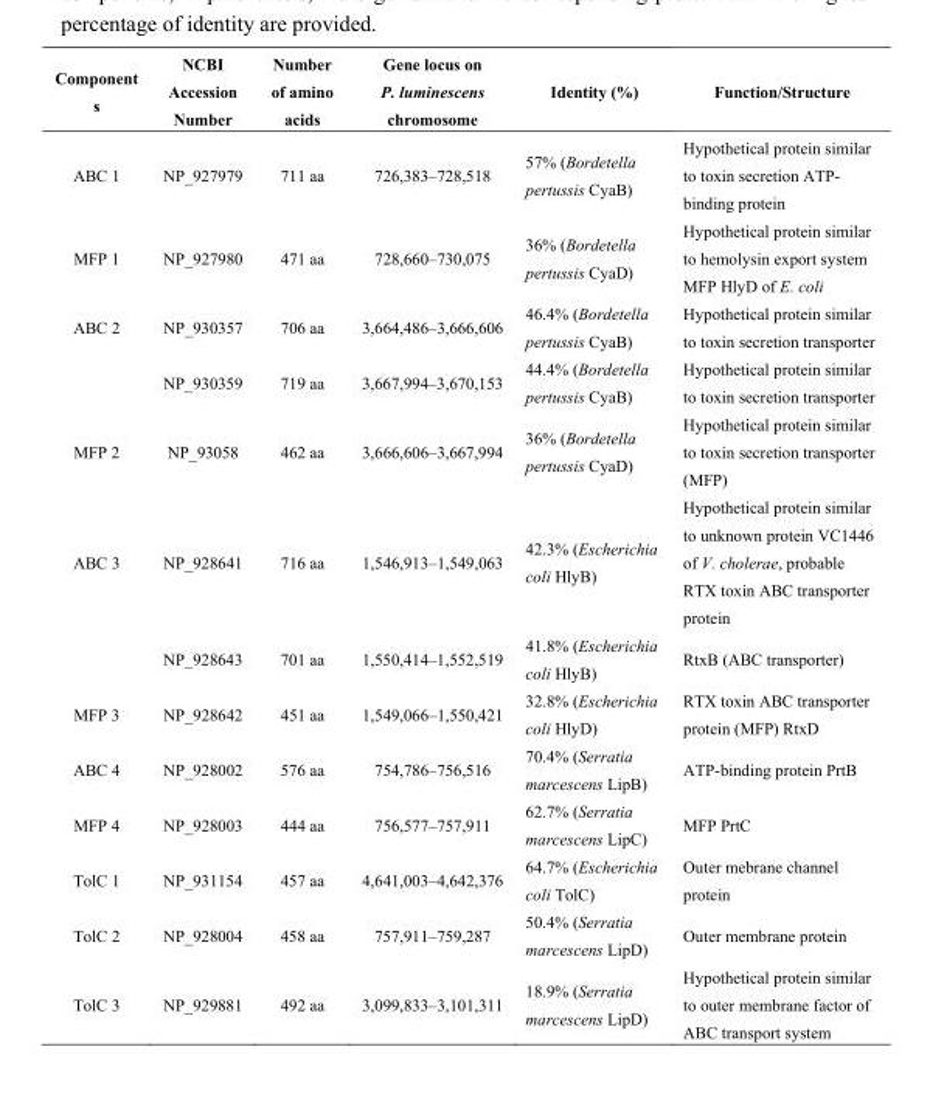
<table><thead><tr><td>Component s</td><td>NCBI Accession Number</td><td>Number of amino acids</td><td>Gene locus on P. luminescens chromosome</td><td>Identity (%)</td><td>Function/Structure</td></tr></thead><tbody><tr><td>ABC 1</td><td>NP_927979</td><td>711 aa</td><td>726,383–728,518</td><td>57% (Bordetella pertussis CyaB)</td><td>Hypothetical protein similar to toxin secretion ATP- binding protein</td></tr><tr><td>MFP 1</td><td>NP_927980</td><td>471 aa</td><td>728,660–730,075</td><td>36% (Bordetella pertussis CyaD)</td><td>Hypothetical protein similar to hemolysin export system MFP HlyD of E. coli</td></tr><tr><td rowspan="2">ABC 2</td><td>NP_930357</td><td>706 aa</td><td>3,664,486–3,666,606</td><td>46.4% (Bordetella pertussis CyaB)</td><td>Hypothetical protein similar to toxin secretion transporter</td></tr><tr><td>NP_930359</td><td>719 aa</td><td>3,667,994–3,670,153</td><td>44.4% (Bordetella pertussis CyaB)</td><td>Hypothetical protein similar to toxin secretion transporter</td></tr><tr><td>MFP 2</td><td>NP_93058</td><td>462 aa</td><td>3,666,606–3,667,994</td><td>36% (Bordetella pertussis CyaD)</td><td>Hypothetical protein similar to toxin secretion transporter (MFP)</td></tr><tr><td rowspan="2">ABC 3</td><td>NP_928641</td><td>716 aa</td><td>1,546,913–1,549,063</td><td>42.3% (Escherichia coli HlyB)</td><td>Hypothetical protein similar to unknown protein VC1446 of V. cholerae, probable RTX toxin ABC transporter protein</td></tr><tr><td>NP_928643</td><td>701 aa</td><td>1,550,414–1,552,519</td><td>41.8% (Escherichia coli HlyB)</td><td>RtxB (ABC transporter)</td></tr><tr><td>MFP 3</td><td>NP_928642</td><td>451 aa</td><td>1,549,066–1,550,421</td><td>32.8% (Escherichia coli HlyD)</td><td>RTX toxin ABC transporter protein (MFP) RtxD</td></tr><tr><td>ABC 4</td><td>NP_928002</td><td>576 aa</td><td>754,786–756,516</td><td>70.4% (Serratia marcescens LipB)</td><td>ATP-binding protein PrtB</td></tr><tr><td>MFP 4</td><td>NP_928003</td><td>444 aa</td><td>756,577–757,911</td><td>62.7% (Serratia marcescens LipC)</td><td>MFP PrtC</td></tr><tr><td>TolC 1</td><td>NP_931154</td><td>457 aa</td><td>4,641,003–4,642,376</td><td>64.7% (Escherichia coli TolC)</td><td>Outer mebrane channel protein</td></tr><tr><td>TolC 2</td><td>NP_928004</td><td>458 aa</td><td>757,911–759,287</td><td>50.4% (Serratia marcescens LipD)</td><td>Outer membrane protein</td></tr><tr><td>TolC 3</td><td>NP_929881</td><td>492 aa</td><td>3,099,833–3,101,311</td><td>18.9% (Serratia marcescens LipD)</td><td>Hypothetical protein similar to outer membrane factor of ABC transport system</td></tr></tbody></table>